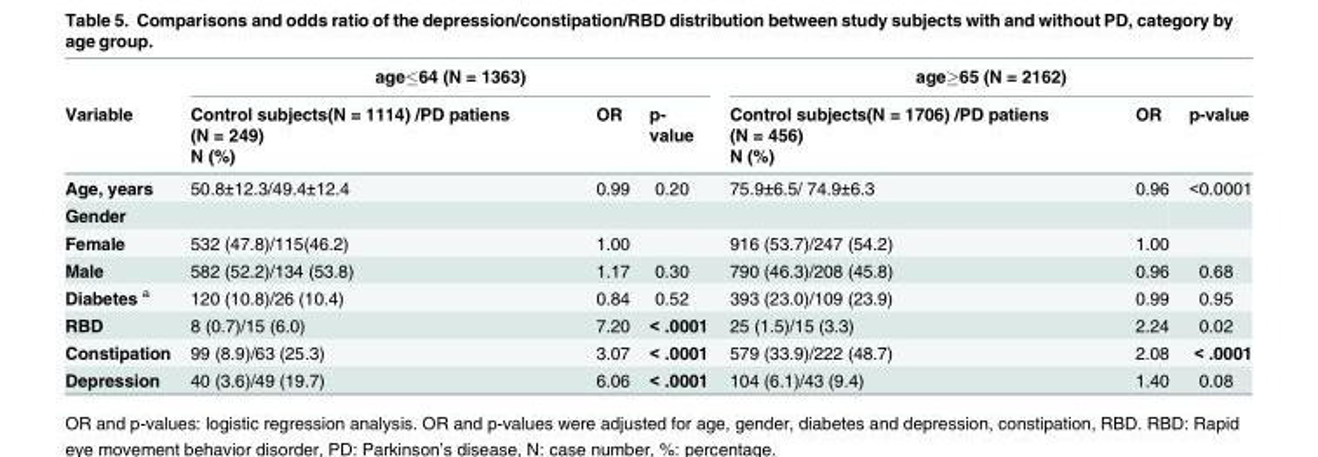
<table><thead><tr><td rowspan="3">Variable</td><td colspan="3">age≤64 (N = 1363)</td><td colspan="3">age≥65 (N = 2162)</td></tr><tr><td rowspan="2">Control subjects(N = 1114) /PD patiens (N = 249) N (%)</td><td rowspan="2">OR</td><td rowspan="2">p- value</td><td rowspan="2">Control subjects(N = 1706) /PD patiens (N = 456) N (%)</td><td rowspan="2">OR</td><td rowspan="2">p-value</td></tr><tr></tr></thead><tbody><tr><td>Age, years</td><td>50.8±12.3/49.4±12.4</td><td>0.99</td><td>0.20</td><td>75.9±6.5/ 74.9±6.3</td><td>0.96</td><td>&lt;0.0001</td></tr><tr><td colspan="7">Gender</td></tr><tr><td>Female</td><td>532 (47.8)/115(46.2)</td><td>1.00</td><td></td><td>916 (53.7)/247 (54.2)</td><td>1.00</td><td></td></tr><tr><td>Male</td><td>582 (52.2)/134 (53.8)</td><td>1.17</td><td>0.30</td><td>790 (46.3)/208 (45.8)</td><td>0.96</td><td>0.68</td></tr><tr><td>Diabetes <sup>a</sup></td><td>120 (10.8)/26 (10.4)</td><td>0.84</td><td>0.52</td><td>393 (23.0)/109 (23.9)</td><td>0.99</td><td>0.95</td></tr><tr><td>RBD</td><td>8 (0.7)/15 (6.0)</td><td>7.20</td><td>&lt; .0001</td><td>25 (1.5)/15 (3.3)</td><td>2.24</td><td>0.02</td></tr><tr><td>Constipation</td><td>99 (8.9)/63 (25.3)</td><td>3.07</td><td>&lt; .0001</td><td>579 (33.9)/222 (48.7)</td><td>2.08</td><td>&lt; .0001</td></tr><tr><td>Depression</td><td>40 (3.6)/49 (19.7)</td><td>6.06</td><td>&lt; .0001</td><td>104 (6.1)/43 (9.4)</td><td>1.40</td><td>0.08</td></tr></tbody></table>